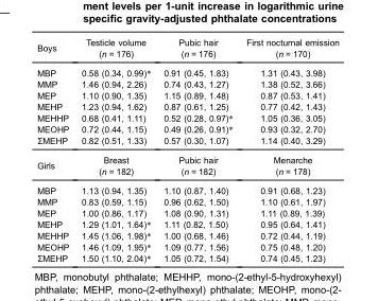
<table><thead><tr><td>Boys</td><td>Testicle volume (n = 176)</td><td>Pubic hair (n = 176)</td><td>First nocturnal emission (n = 170)</td></tr></thead><tbody><tr><td>MBP</td><td>0.58 (0.34, 0.99)*</td><td>0.91 (0.45, 1.83)</td><td>1.31 (0.43, 3.98)</td></tr><tr><td>MMP</td><td>1.46 (0.94, 2.26)</td><td>0.74 (0.43, 1.27)</td><td>1.38 (0.52, 3.66)</td></tr><tr><td>MEP</td><td>1.10 (0.90, 1.35)</td><td>1.15 (0.89, 1.48)</td><td>0.87 (0.53, 1.41)</td></tr><tr><td>MEHP</td><td>1.23 (0.94, 1.62)</td><td>0.87 (0.61, 1.25)</td><td>0.77 (0.42, 1.43)</td></tr><tr><td>MEHHP</td><td>0.68 (0.41, 1.11)</td><td>0.52 (0.28, 0.97)*</td><td>1.05 (0.36, 3.05)</td></tr><tr><td>MEOHP</td><td>0.72 (0.44, 1.15)</td><td>0.49 (0.26, 0.91)*</td><td>0.93 (0.32, 2.70)</td></tr><tr><td>ΣMEHP</td><td>0.82 (0.51, 1.33)</td><td>0.57 (0.30, 1.07)</td><td>1.14 (0.40, 3.29)</td></tr><tr><td>Girls</td><td>Breast (n = 182)</td><td>Pubic hair (n = 182)</td><td>Menarche (n = 178)</td></tr><tr><td>MBP</td><td>1.13 (0.94, 1.35)</td><td>1.10 (0.87, 1.40)</td><td>0.91 (0.68, 1.23)</td></tr><tr><td>MMP</td><td>0.83 (0.59, 1.15)</td><td>0.96 (0.62, 1.50)</td><td>1.10 (0.61, 1.97)</td></tr><tr><td>MEP</td><td>1.00 (0.86, 1.17)</td><td>1.08 (0.90, 1.31)</td><td>1.11 (0.89, 1.39)</td></tr><tr><td>MEHP</td><td>1.29 (1.01, 1.64)*</td><td>1.11 (0.82, 1.50)</td><td>0.95 (0.64, 1.41)</td></tr><tr><td>MEHHP</td><td>1.45 (1.06, 1.98)*</td><td>1.00 (0.68, 1.46)</td><td>0.72 (0.44, 1.19)</td></tr><tr><td>MEOHP</td><td>1.46 (1.09, 1.95)*</td><td>1.09 (0.77, 1.56)</td><td>0.75 (0.48, 1.20)</td></tr><tr><td>ΣMEHP</td><td>1.50 (1.10, 2.04)*</td><td>1.05 (0.72, 1.54)</td><td>0.74 (0.45, 1.23)</td></tr></tbody></table>